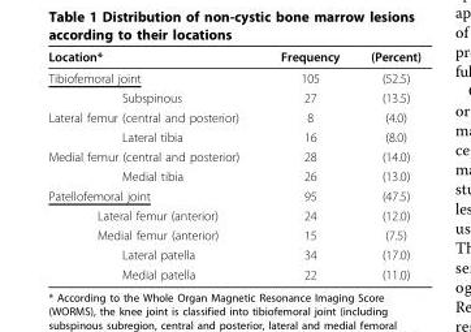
<table><thead><tr><td>Location*</td><td>Frequency</td><td>(Percent)</td></tr></thead><tbody><tr><td>Tibiofemoral joint</td><td>105</td><td>(52.5)</td></tr><tr><td>Subspinous</td><td>27</td><td>(13.5)</td></tr><tr><td>Lateral femur (central and posterior)</td><td>8</td><td>(4.0)</td></tr><tr><td>Lateral tibia</td><td>16</td><td>(8.0)</td></tr><tr><td>Medial femur (central and posterior)</td><td>28</td><td>(14.0)</td></tr><tr><td>Medial tibia</td><td>26</td><td>(13.0)</td></tr><tr><td>Patellofemoral joint</td><td>95</td><td>(47.5)</td></tr><tr><td>Lateral femur (anterior)</td><td>24</td><td>(12.0)</td></tr><tr><td>Medial femur (anterior)</td><td>15</td><td>(7.5)</td></tr><tr><td>Lateral patella</td><td>34</td><td>(17.0)</td></tr><tr><td>Medial patella</td><td>22</td><td>(11.0)</td></tr></tbody></table>